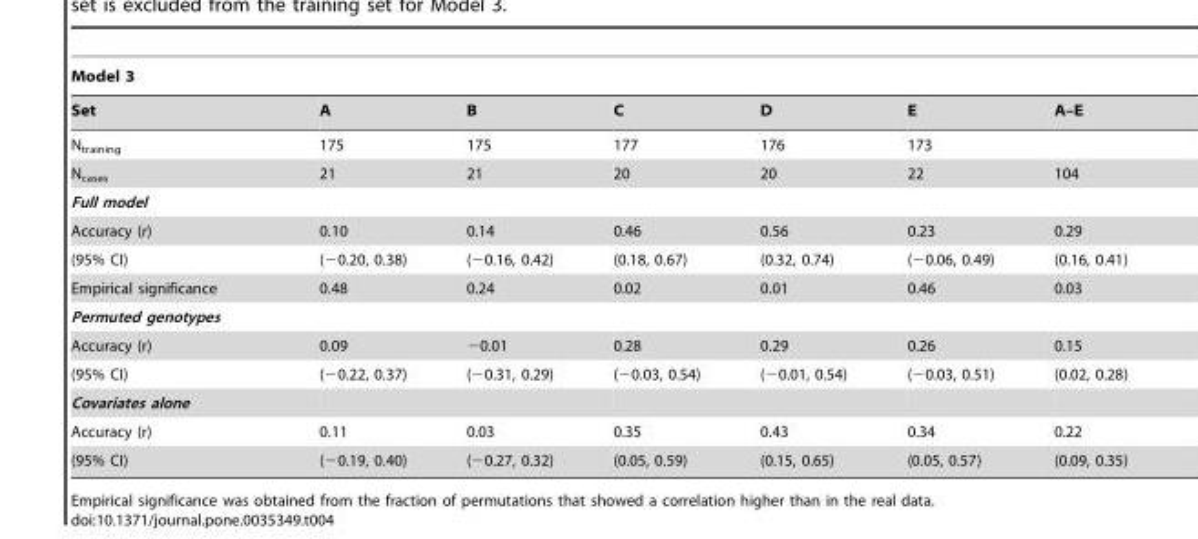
<table><thead><tr><td colspan="7">Model 3</td></tr><tr><td>Set</td><td>A</td><td>B</td><td>C</td><td>D</td><td>E</td><td>A–E</td></tr></thead><tbody><tr><td>N<sub>training</sub></td><td>175</td><td>175</td><td>177</td><td>176</td><td>173</td><td></td></tr><tr><td>N<sub>cases</sub></td><td>21</td><td>21</td><td>20</td><td>20</td><td>22</td><td>104</td></tr><tr><td colspan="7">Full model</td></tr><tr><td>Accuracy (r)</td><td>0.10</td><td>0.14</td><td>0.46</td><td>0.56</td><td>0.23</td><td>0.29</td></tr><tr><td>(95% CI)</td><td>(−0.20, 0.38)</td><td>(−0.16, 0.42)</td><td>(0.18, 0.67)</td><td>(0.32, 0.74)</td><td>(−0.06, 0.49)</td><td>(0.16, 0.41)</td></tr><tr><td>Empirical significance</td><td>0.48</td><td>0.24</td><td>0.02</td><td>0.01</td><td>0.46</td><td>0.03</td></tr><tr><td colspan="7">Permuted genotypes</td></tr><tr><td>Accuracy (r)</td><td>0.09</td><td>−0.01</td><td>0.28</td><td>0.29</td><td>0.26</td><td>0.15</td></tr><tr><td>(95% CI)</td><td>(−0.22, 0.37)</td><td>(−0.31, 0.29)</td><td>(−0.03, 0.54)</td><td>(−0.01, 0.54)</td><td>(−0.03, 0.51)</td><td>(0.02, 0.28)</td></tr><tr><td colspan="7">Covariates alone</td></tr><tr><td>Accuracy (r)</td><td>0.11</td><td>0.03</td><td>0.35</td><td>0.43</td><td>0.34</td><td>0.22</td></tr><tr><td>(95% CI)</td><td>(−0.19, 0.40)</td><td>(−0.27, 0.32)</td><td>(0.05, 0.59)</td><td>(0.15, 0.65)</td><td>(0.05, 0.57)</td><td>(0.09, 0.35)</td></tr></tbody></table>